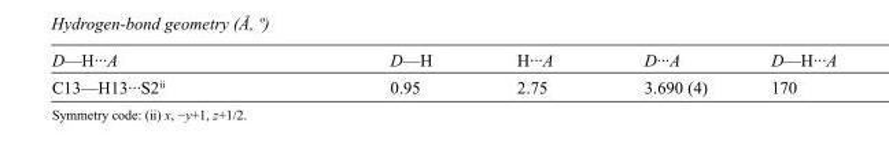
<table><tbody><tr><td>D—H···A</td><td>D—H</td><td>H···A</td><td>D···A</td><td>D—H···A</td></tr><tr><td>C13—H13···S2<sup>ii</sup></td><td>0.95</td><td>2.75</td><td>3.690 (4)</td><td>170</td></tr></tbody></table>